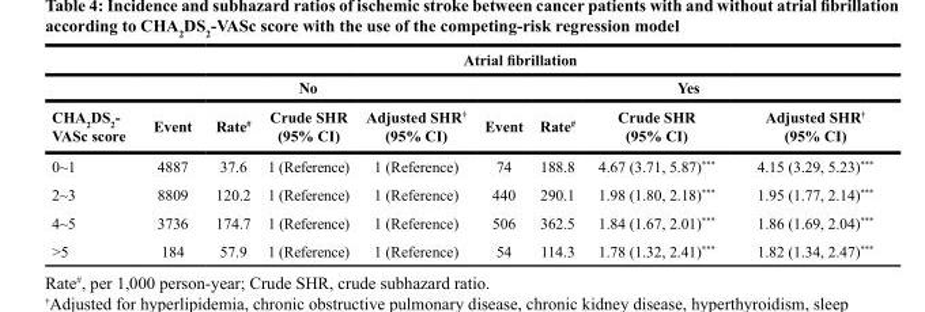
<table><thead><tr><td rowspan="3">CHA<sub>2</sub>DS<sub>2</sub>- VASc score</td><td colspan="8">Atrial fibrillation</td></tr><tr><td colspan="4">No</td><td colspan="4">Yes</td></tr><tr><td>Event</td><td>Rate<sup>#</sup></td><td>Crude SHR (95% CI)</td><td>Adjusted SHR<sup>†</sup> (95% CI)</td><td>Event</td><td>Rate<sup>#</sup></td><td>Crude SHR (95% CI)</td><td>Adjusted SHR<sup>†</sup> (95% CI)</td></tr></thead><tbody><tr><td>0~1</td><td>4887</td><td>37.6</td><td>1 (Reference)</td><td>1 (Reference)</td><td>74</td><td>188.8</td><td>4.67 (3.71, 5.87)***</td><td>4.15 (3.29, 5.23)***</td></tr><tr><td>2~3</td><td>8809</td><td>120.2</td><td>1 (Reference)</td><td>1 (Reference)</td><td>440</td><td>290.1</td><td>1.98 (1.80, 2.18)***</td><td>1.95 (1.77, 2.14)***</td></tr><tr><td>4~5</td><td>3736</td><td>174.7</td><td>1 (Reference)</td><td>1 (Reference)</td><td>506</td><td>362.5</td><td>1.84 (1.67, 2.01)***</td><td>1.86 (1.69, 2.04)***</td></tr><tr><td>&gt;5</td><td>184</td><td>57.9</td><td>1 (Reference)</td><td>1 (Reference)</td><td>54</td><td>114.3</td><td>1.78 (1.32, 2.41)***</td><td>1.82 (1.34, 2.47)***</td></tr></tbody></table>